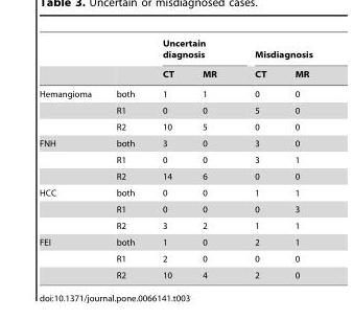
<table><thead><tr><td rowspan="2"></td><td rowspan="2"></td><td colspan="2">Uncertain diagnosis</td><td colspan="2">Misdiagnosis</td></tr><tr><td>CT</td><td>MR</td><td>CT</td><td>MR</td></tr></thead><tbody><tr><td rowspan="3">Hemangioma</td><td>both</td><td>1</td><td>1</td><td>0</td><td>0</td></tr><tr><td>R1</td><td>0</td><td>0</td><td>5</td><td>0</td></tr><tr><td>R2</td><td>10</td><td>5</td><td>0</td><td>0</td></tr><tr><td rowspan="3">FNH</td><td>both</td><td>3</td><td>0</td><td>3</td><td>0</td></tr><tr><td>R1</td><td>0</td><td>0</td><td>3</td><td>1</td></tr><tr><td>R2</td><td>14</td><td>6</td><td>0</td><td>0</td></tr><tr><td rowspan="3">HCC</td><td>both</td><td>0</td><td>0</td><td>1</td><td>1</td></tr><tr><td>R1</td><td>0</td><td>0</td><td>0</td><td>3</td></tr><tr><td>R2</td><td>3</td><td>2</td><td>1</td><td>1</td></tr><tr><td rowspan="3">FEI</td><td>both</td><td>1</td><td>0</td><td>2</td><td>1</td></tr><tr><td>R1</td><td>2</td><td>0</td><td>0</td><td>0</td></tr><tr><td>R2</td><td>10</td><td>4</td><td>2</td><td>0</td></tr></tbody></table>